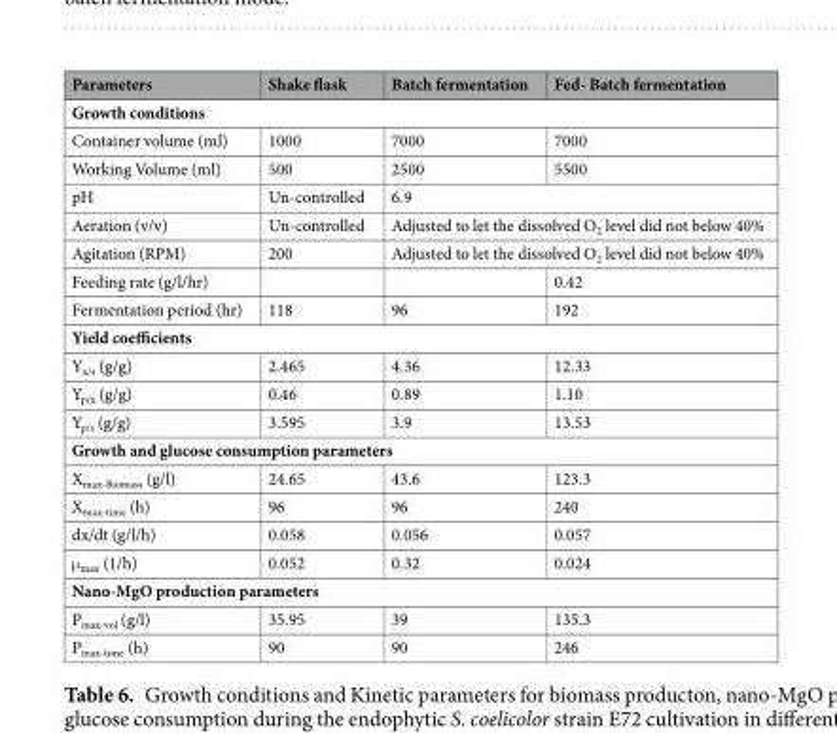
<table><thead><tr><td>Parameters</td><td>Shake flask</td><td>Batch fermentation</td><td>Fed- Batch fermentation</td></tr></thead><tbody><tr><td colspan="4">Growth conditions</td></tr><tr><td>Container volume (ml)</td><td>1000</td><td>7000</td><td>7000</td></tr><tr><td>Working Volume (ml)</td><td>500</td><td>2500</td><td>5500</td></tr><tr><td>pH</td><td>Un-controlled</td><td colspan="2">6.9</td></tr><tr><td>Aeration (v/v)</td><td>Un-controlled</td><td colspan="2">Adjusted to let the dissolved O<sub>2</sub> level did not below 40%</td></tr><tr><td>Agitation (RPM)</td><td>200</td><td colspan="2">Adjusted to let the dissolved O<sub>2</sub> level did not below 40%</td></tr><tr><td>Feeding rate (g/l/hr)</td><td></td><td></td><td>0.42</td></tr><tr><td>Fermentation period (hr)</td><td>118</td><td>96</td><td>192</td></tr><tr><td colspan="4">Yield coefficients</td></tr><tr><td>Y<sub>x/s</sub> (g/g)</td><td>2.465</td><td>4.36</td><td>12.33</td></tr><tr><td>Y<sub>p/x</sub> (g/g)</td><td>0.46</td><td>0.89</td><td>1.10</td></tr><tr><td>Y<sub>p/s</sub> (g/g)</td><td>3.595</td><td>3.9</td><td>13.53</td></tr><tr><td colspan="4">Growth and glucose consumption parameters</td></tr><tr><td>X<sub>max-Biomass</sub> (g/l)</td><td>24.65</td><td>43.6</td><td>123.3</td></tr><tr><td>X<sub>max-time</sub> (h)</td><td>96</td><td>96</td><td>240</td></tr><tr><td>dx/dt (g/l/h)</td><td>0.058</td><td>0.056</td><td>0.057</td></tr><tr><td>μ<sub>max</sub> (1/h)</td><td>0.052</td><td>0.32</td><td>0.024</td></tr><tr><td colspan="4">Nano-MgO production parameters</td></tr><tr><td>P<sub>max-vol</sub> (g/l)</td><td>35.95</td><td>39</td><td>135.3</td></tr><tr><td>P<sub>max-time</sub> (h)</td><td>90</td><td>90</td><td>246</td></tr></tbody></table>